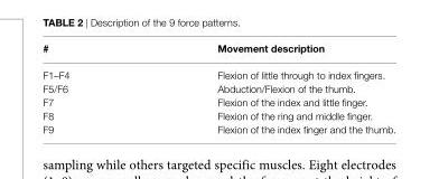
<table><thead><tr><td>#</td><td>Movement description</td></tr></thead><tbody><tr><td>F1–F4</td><td>Flexion of little through to index fingers.</td></tr><tr><td>F5/F6</td><td>Abduction/Flexion of the thumb.</td></tr><tr><td>F7</td><td>Flexion of the index and little finger.</td></tr><tr><td>F8</td><td>Flexion of the ring and middle finger.</td></tr><tr><td>F9</td><td>Flexion of the index finger and the thumb.</td></tr></tbody></table>